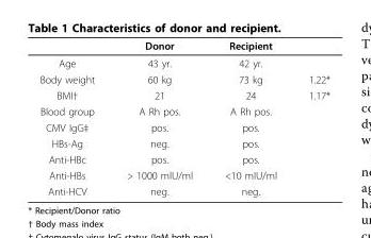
<table><thead><tr><td></td><td>Donor</td><td>Recipient</td><td></td></tr></thead><tbody><tr><td>Age</td><td>43 yr.</td><td>42 yr.</td><td></td></tr><tr><td>Body weight</td><td>60 kg</td><td>73 kg</td><td>1.22*</td></tr><tr><td>BMI†</td><td>21</td><td>24</td><td>1.17*</td></tr><tr><td>Blood group</td><td>A Rh pos.</td><td>A Rh pos.</td><td></td></tr><tr><td>CMV IgG‡</td><td>pos.</td><td>pos.</td><td></td></tr><tr><td>HBs-Ag</td><td>neg.</td><td>pos.</td><td></td></tr><tr><td>Anti-HBc</td><td>pos.</td><td>pos.</td><td></td></tr><tr><td>Anti-HBs</td><td>&gt; 1000 mlU/ml</td><td>&lt;10 mIU/ml</td><td></td></tr><tr><td>Anti-HCV</td><td>neg.</td><td>neg.</td><td></td></tr></tbody></table>